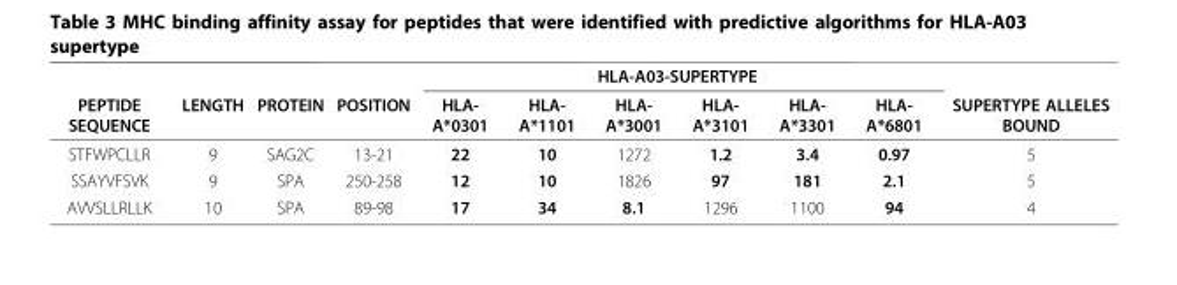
<table><thead><tr><td rowspan="2">PEPTIDE SEQUENCE</td><td rowspan="2">LENGTH</td><td rowspan="2">PROTEIN</td><td rowspan="2">POSITION</td><td colspan="6">HLA-A03-SUPERTYPE</td><td rowspan="2">SUPERTYPE ALLELES BOUND</td></tr><tr><td>HLA- A*0301</td><td>HLA- A*1101</td><td>HLA- A*3001</td><td>HLA- A*3101</td><td>HLA- A*3301</td><td>HLA- A*6801</td></tr></thead><tbody><tr><td>STFWPCLLR</td><td>9</td><td>SAG2C</td><td>13-21</td><td>22</td><td>10</td><td>1272</td><td>1.2</td><td>3.4</td><td>0.97</td><td>5</td></tr><tr><td>SSAYVFSVK</td><td>9</td><td>SPA</td><td>250-258</td><td>12</td><td>10</td><td>1826</td><td>97</td><td>181</td><td>2.1</td><td>5</td></tr><tr><td>AVVSLLRLLK</td><td>10</td><td>SPA</td><td>89-98</td><td>17</td><td>34</td><td>8.1</td><td>1296</td><td>1100</td><td>94</td><td>4</td></tr></tbody></table>